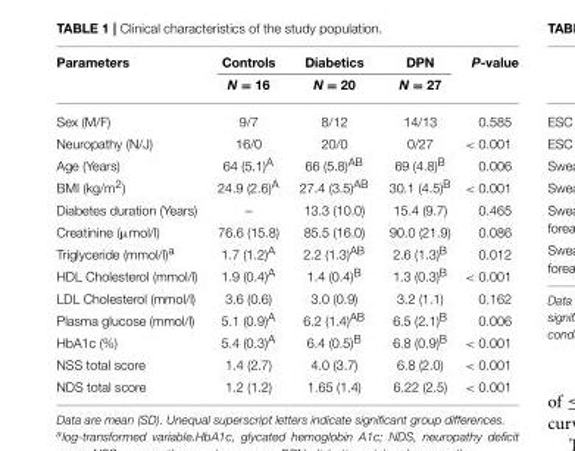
<table><thead><tr><td>Parameters</td><td>Controls</td><td>Diabetics</td><td>DPN</td><td>P-value</td></tr></thead><tbody><tr><td></td><td>N = 16</td><td>N = 20</td><td>N = 27</td><td></td></tr><tr><td>Sex (M/F)</td><td>9/7</td><td>8/12</td><td>14/13</td><td>0.585</td></tr><tr><td>Neuropathy (N/J)</td><td>16/0</td><td>20/0</td><td>0/27</td><td>&lt; 0.001</td></tr><tr><td>Age (Years)</td><td>64 (5.1)<sup>A</sup></td><td>66 (5.8)<sup>AB</sup></td><td>69 (4.8)<sup>B</sup></td><td>0.006</td></tr><tr><td>BMI (kg/m<sup>2</sup>)</td><td>24.9 (2.6)<sup>A</sup></td><td>27.4 (3.5)<sup>AB</sup></td><td>30.1 (4.5)<sup>B</sup></td><td>&lt; 0.001</td></tr><tr><td>Diabetes duration (Years)</td><td>–</td><td>13.3 (10.0)</td><td>15.4 (9.7)</td><td>0.465</td></tr><tr><td>Creatinine (µmol/l)</td><td>76.6 (15.8)</td><td>85.5 (16.0)</td><td>90.0 (21.9)</td><td>0.086</td></tr><tr><td>Triglyceride (mmol/l)<sup>a</sup></td><td>1.7 (1.2)<sup>A</sup></td><td>2.2 (1.3)<sup>AB</sup></td><td>2.6 (1.3)<sup>B</sup></td><td>0.012</td></tr><tr><td>HDL Cholesterol (mmol/l)</td><td>1.9 (0.4)<sup>A</sup></td><td>1.4 (0.4)<sup>B</sup></td><td>1.3 (0.3)<sup>B</sup></td><td>&lt; 0.001</td></tr><tr><td>LDL Cholesterol (mmol/l)</td><td>3.6 (0.6)</td><td>3.0 (0.9)</td><td>3.2 (1.1)</td><td>0.162</td></tr><tr><td>Plasma glucose (mmol/l)</td><td>5.1 (0.9)<sup>A</sup></td><td>6.2 (1.4)<sup>AB</sup></td><td>6.5 (2.1)<sup>B</sup></td><td>0.006</td></tr><tr><td>HbA1c (%)</td><td>5.4 (0.3)<sup>A</sup></td><td>6.4 (0.5)<sup>B</sup></td><td>6.8 (0.9)<sup>B</sup></td><td>&lt; 0.001</td></tr><tr><td>NSS total score</td><td>1.4 (2.7)</td><td>4.0 (3.7)</td><td>6.8 (2.0)</td><td>&lt; 0.001</td></tr><tr><td>NDS total score</td><td>1.2 (1.2)</td><td>1.65 (1.4)</td><td>6.22 (2.5)</td><td>&lt; 0.001</td></tr></tbody></table>